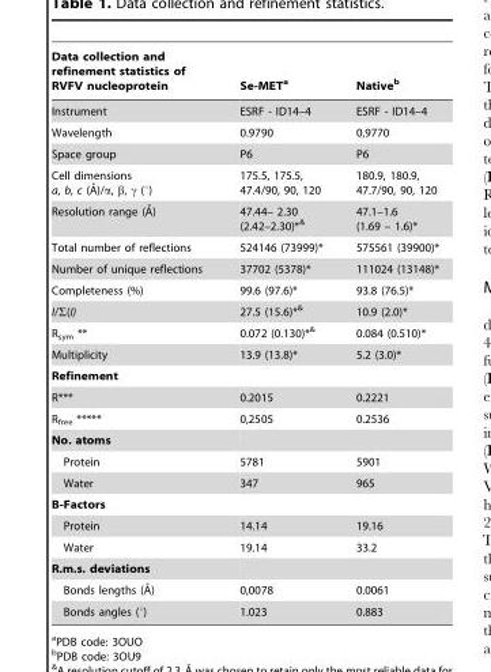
<table><thead><tr><td>Data collection and refinement statistics of RVFV nucleoprotein</td><td>Se-MET<sup>a</sup></td><td>Native<sup>b</sup></td></tr></thead><tbody><tr><td>Instrument</td><td>ESRF - ID14–4</td><td>ESRF - ID14–4</td></tr><tr><td>Wavelength</td><td>0.9790</td><td>0,9770</td></tr><tr><td>Space group</td><td>P6</td><td>P6</td></tr><tr><td>Cell dimensions a, b, c (A˚)/a, b, c (u)</td><td>175.5, 175.5, 47.4/90, 90, 120</td><td>180.9, 180.9, 47.7/90, 90, 120</td></tr><tr><td>Resolution range (A˚)</td><td>47.44– 2.30 (2.42–2.30)*&amp;</td><td>47.1–1.6 (1.69 – 1.6)*</td></tr><tr><td>Total number of reflections</td><td>524146 (73999)*</td><td>575561 (39900)*</td></tr><tr><td>Number of unique reflections</td><td>37702 (5378)*</td><td>111024 (13148)*</td></tr><tr><td>Completeness (%)</td><td>99.6 (97.6)*</td><td>93.8 (76.5)*</td></tr><tr><td>I/Σ(I)</td><td>27.5 (15.6)*&amp;</td><td>10.9 (2.0)*</td></tr><tr><td>R<sub>sym</sub> **</td><td>0.072 (0.130)*&amp;</td><td>0.084 (0.510)*</td></tr><tr><td>Multiplicity</td><td>13.9 (13.8)*</td><td>5.2 (3.0)*</td></tr><tr><td colspan="3">Refinement</td></tr><tr><td>R***</td><td>0.2015</td><td>0.2221</td></tr><tr><td>R<sub>free</sub> *****</td><td>0,2505</td><td>0.2536</td></tr><tr><td colspan="3">No. atoms</td></tr><tr><td>Protein</td><td>5781</td><td>5901</td></tr><tr><td>Water</td><td>347</td><td>965</td></tr><tr><td colspan="3">B-Factors</td></tr><tr><td>Protein</td><td>14.14</td><td>19.16</td></tr><tr><td>Water</td><td>19.14</td><td>33.2</td></tr><tr><td colspan="3">R.m.s. deviations</td></tr><tr><td>Bonds lengths (A˚)</td><td>0,0078</td><td>0.0061</td></tr><tr><td>Bonds angles (°)</td><td>1.023</td><td>0.883</td></tr></tbody></table>